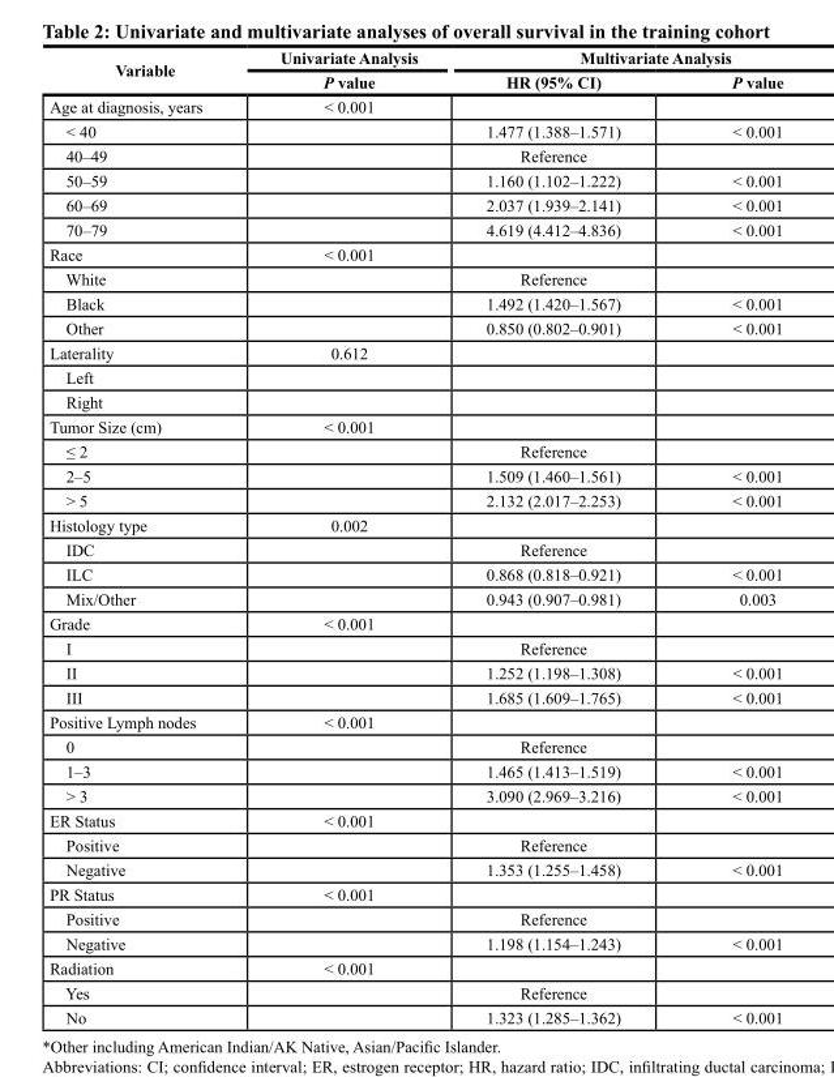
<table><thead><tr><td rowspan="2">Variable</td><td rowspan="2">Univariate Analysis P value</td><td colspan="2">Multivariate Analysis</td></tr><tr><td>HR (95% CI)</td><td>P value</td></tr></thead><tbody><tr><td>Age at diagnosis, years</td><td>&lt; 0.001</td><td></td><td></td></tr><tr><td>&lt; 40</td><td></td><td>1.477 (1.388–1.571)</td><td>&lt; 0.001</td></tr><tr><td>40–49</td><td></td><td>Reference</td><td></td></tr><tr><td>50–59</td><td></td><td>1.160 (1.102–1.222)</td><td>&lt; 0.001</td></tr><tr><td>60–69</td><td></td><td>2.037 (1.939–2.141)</td><td>&lt; 0.001</td></tr><tr><td>70–79</td><td></td><td>4.619 (4.412–4.836)</td><td>&lt; 0.001</td></tr><tr><td>Race</td><td>&lt; 0.001</td><td></td><td></td></tr><tr><td>White</td><td></td><td>Reference</td><td></td></tr><tr><td>Black</td><td></td><td>1.492 (1.420–1.567)</td><td>&lt; 0.001</td></tr><tr><td>Other</td><td></td><td>0.850 (0.802–0.901)</td><td>&lt; 0.001</td></tr><tr><td>Laterality</td><td>0.612</td><td></td><td></td></tr><tr><td colspan="4">Left</td></tr><tr><td colspan="4">Right</td></tr><tr><td>Tumor Size (cm)</td><td>&lt; 0.001</td><td></td><td></td></tr><tr><td>≤ 2</td><td></td><td>Reference</td><td></td></tr><tr><td>2–5</td><td></td><td>1.509 (1.460–1.561)</td><td>&lt; 0.001</td></tr><tr><td>&gt; 5</td><td></td><td>2.132 (2.017–2.253)</td><td>&lt; 0.001</td></tr><tr><td>Histology type</td><td>0.002</td><td></td><td></td></tr><tr><td>IDC</td><td></td><td>Reference</td><td></td></tr><tr><td>ILC</td><td></td><td>0.868 (0.818–0.921)</td><td>&lt; 0.001</td></tr><tr><td>Mix/Other</td><td></td><td>0.943 (0.907–0.981)</td><td>0.003</td></tr><tr><td>Grade</td><td>&lt; 0.001</td><td></td><td></td></tr><tr><td>I</td><td></td><td>Reference</td><td></td></tr><tr><td>II</td><td></td><td>1.252 (1.198–1.308)</td><td>&lt; 0.001</td></tr><tr><td>III</td><td></td><td>1.685 (1.609–1.765)</td><td>&lt; 0.001</td></tr><tr><td>Positive Lymph nodes</td><td>&lt; 0.001</td><td></td><td></td></tr><tr><td>0</td><td></td><td>Reference</td><td></td></tr><tr><td>1–3</td><td></td><td>1.465 (1.413–1.519)</td><td>&lt; 0.001</td></tr><tr><td>&gt; 3</td><td></td><td>3.090 (2.969–3.216)</td><td>&lt; 0.001</td></tr><tr><td>ER Status</td><td>&lt; 0.001</td><td></td><td></td></tr><tr><td>Positive</td><td></td><td>Reference</td><td></td></tr><tr><td>Negative</td><td></td><td>1.353 (1.255–1.458)</td><td>&lt; 0.001</td></tr><tr><td>PR Status</td><td>&lt; 0.001</td><td></td><td></td></tr><tr><td>Positive</td><td></td><td>Reference</td><td></td></tr><tr><td>Negative</td><td></td><td>1.198 (1.154–1.243)</td><td>&lt; 0.001</td></tr><tr><td>Radiation</td><td>&lt; 0.001</td><td></td><td></td></tr><tr><td>Yes</td><td></td><td>Reference</td><td></td></tr><tr><td>No</td><td></td><td>1.323 (1.285–1.362)</td><td>&lt; 0.001</td></tr></tbody></table>